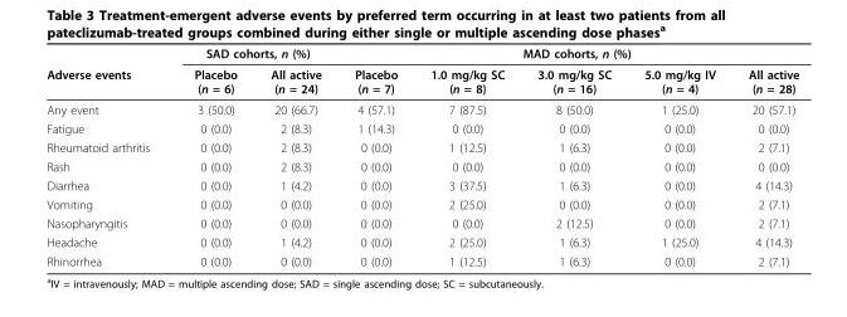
<table><thead><tr><td rowspan="2">Adverse events</td><td colspan="2">SAD cohorts, n (%)</td><td colspan="5">MAD cohorts, n (%)</td></tr><tr><td>Placebo (n = 6)</td><td>All active (n = 24)</td><td>Placebo (n = 7)</td><td>1.0 mg/kg SC (n = 8)</td><td>3.0 mg/kg SC (n = 16)</td><td>5.0 mg/kg IV (n = 4)</td><td>All active (n = 28)</td></tr></thead><tbody><tr><td>Any event</td><td>3 (50.0)</td><td>20 (66.7)</td><td>4 (57.1)</td><td>7 (87.5)</td><td>8 (50.0)</td><td>1 (25.0)</td><td>20 (57.1)</td></tr><tr><td>Fatigue</td><td>0 (0.0)</td><td>2 (8.3)</td><td>1 (14.3)</td><td>0 (0.0)</td><td>0 (0.0)</td><td>0 (0.0)</td><td>0 (0.0)</td></tr><tr><td>Rheumatoid arthritis</td><td>0 (0.0)</td><td>2 (8.3)</td><td>0 (0.0)</td><td>1 (12.5)</td><td>1 (6.3)</td><td>0 (0.0)</td><td>2 (7.1)</td></tr><tr><td>Rash</td><td>0 (0.0)</td><td>2 (8.3)</td><td>0 (0.0)</td><td>0 (0.0)</td><td>0 (0.0)</td><td>0 (0.0)</td><td>0 (0.0)</td></tr><tr><td>Diarrhea</td><td>0 (0.0)</td><td>1 (4.2)</td><td>0 (0.0)</td><td>3 (37.5)</td><td>1 (6.3)</td><td>0 (0.0)</td><td>4 (14.3)</td></tr><tr><td>Vomiting</td><td>0 (0.0)</td><td>0 (0.0)</td><td>0 (0.0)</td><td>2 (25.0)</td><td>0 (0.0)</td><td>0 (0.0)</td><td>2 (7.1)</td></tr><tr><td>Nasopharyngitis</td><td>0 (0.0)</td><td>0 (0.0)</td><td>0 (0.0)</td><td>0 (0.0)</td><td>2 (12.5)</td><td>0 (0.0)</td><td>2 (7.1)</td></tr><tr><td>Headache</td><td>0 (0.0)</td><td>1 (4.2)</td><td>0 (0.0)</td><td>2 (25.0)</td><td>1 (6.3)</td><td>1 (25.0)</td><td>4 (14.3)</td></tr><tr><td>Rhinorrhea</td><td>0 (0.0)</td><td>0 (0.0)</td><td>0 (0.0)</td><td>1 (12.5)</td><td>1 (6.3)</td><td>0 (0.0)</td><td>2 (7.1)</td></tr></tbody></table>